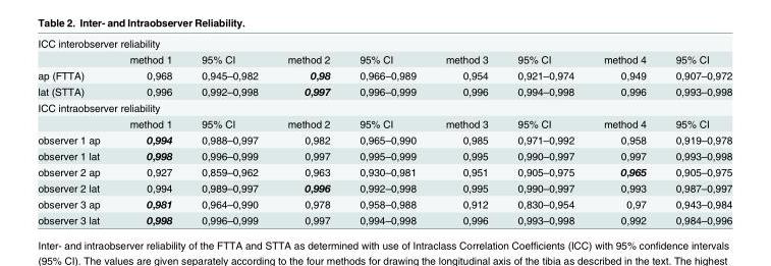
<table><tbody><tr><td colspan="9">ICC interobserver reliability</td></tr><tr><td></td><td>method 1</td><td>95% CI</td><td>method 2</td><td>95% CI</td><td>method 3</td><td>95% CI</td><td>method 4</td><td>95% CI</td></tr><tr><td>ap (FTTA)</td><td>0,968</td><td>0,945–0,982</td><td>0,98</td><td>0,966–0,989</td><td>0,954</td><td>0,921–0,974</td><td>0,949</td><td>0,907–0,972</td></tr><tr><td>lat (STTA)</td><td>0,996</td><td>0,992–0,998</td><td>0,997</td><td>0,996–0,999</td><td>0,996</td><td>0,994–0,998</td><td>0,996</td><td>0,993–0,998</td></tr><tr><td colspan="9">ICC intraobserver reliability</td></tr><tr><td></td><td>method 1</td><td>95% CI</td><td>method 2</td><td>95% CI</td><td>method 3</td><td>95% CI</td><td>method 4</td><td>95% CI</td></tr><tr><td>observer 1 ap</td><td>0,994</td><td>0,988–0,997</td><td>0,982</td><td>0,965–0,990</td><td>0,985</td><td>0,971–0,992</td><td>0,958</td><td>0,919–0,978</td></tr><tr><td>observer 1 lat</td><td>0,998</td><td>0,996–0,999</td><td>0,997</td><td>0,995–0,999</td><td>0,995</td><td>0,990–0,997</td><td>0,997</td><td>0,993–0,998</td></tr><tr><td>observer 2 ap</td><td>0,927</td><td>0,859–0,962</td><td>0,963</td><td>0,930–0,981</td><td>0,951</td><td>0,905–0,975</td><td>0,965</td><td>0,905–0,975</td></tr><tr><td>observer 2 lat</td><td>0,994</td><td>0,989–0,997</td><td>0,996</td><td>0,992–0,998</td><td>0,995</td><td>0,990–0,997</td><td>0,993</td><td>0,987–0,997</td></tr><tr><td>observer 3 ap</td><td>0,981</td><td>0,964–0,990</td><td>0,978</td><td>0,958–0,988</td><td>0,912</td><td>0,830–0,954</td><td>0,97</td><td>0,943–0,984</td></tr><tr><td>observer 3 lat</td><td>0,998</td><td>0,996–0,999</td><td>0,997</td><td>0,994–0,998</td><td>0,996</td><td>0,993–0,998</td><td>0,992</td><td>0,984–0,996</td></tr></tbody></table>